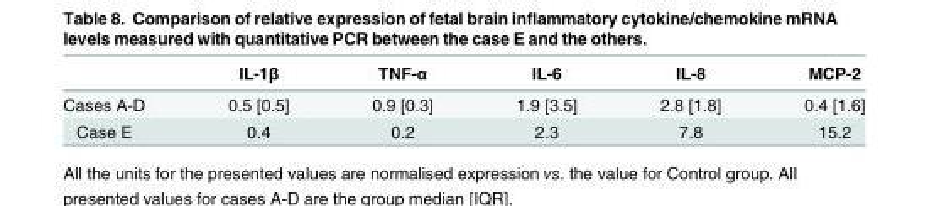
<table><thead><tr><td></td><td>IL-1β</td><td>TNF-α</td><td>IL-6</td><td>IL-8</td><td>MCP-2</td></tr></thead><tbody><tr><td>Cases A-D</td><td>0.5 [0.5]</td><td>0.9 [0.3]</td><td>1.9 [3.5]</td><td>2.8 [1.8]</td><td>0.4 [1.6]</td></tr><tr><td>Case E</td><td>0.4</td><td>0.2</td><td>2.3</td><td>7.8</td><td>15.2</td></tr></tbody></table>